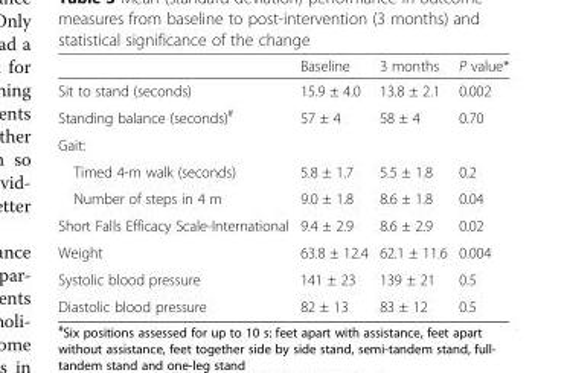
<table><thead><tr><td></td><td>Baseline</td><td>3 months</td><td>P value*</td></tr></thead><tbody><tr><td>Sit to stand (seconds)</td><td>15.9 ± 4.0</td><td>13.8 ± 2.1</td><td>0.002</td></tr><tr><td>Standing balance (seconds)<sup>#</sup></td><td>57 ± 4</td><td>58 ± 4</td><td>0.70</td></tr><tr><td colspan="4">Gait:</td></tr><tr><td>Timed 4-m walk (seconds)</td><td>5.8 ± 1.7</td><td>5.5 ± 1.8</td><td>0.2</td></tr><tr><td>Number of steps in 4 m</td><td>9.0 ± 1.8</td><td>8.6 ± 1.8</td><td>0.04</td></tr><tr><td>Short Falls Efficacy Scale-International</td><td>9.4 ± 2.9</td><td>8.6 ± 2.9</td><td>0.02</td></tr><tr><td>Weight</td><td>63.8 ± 12.4</td><td>62.1 ± 11.6</td><td>0.004</td></tr><tr><td>Systolic blood pressure</td><td>141 ± 23</td><td>139 ± 21</td><td>0.5</td></tr><tr><td>Diastolic blood pressure</td><td>82 ± 13</td><td>83 ± 12</td><td>0.5</td></tr></tbody></table>